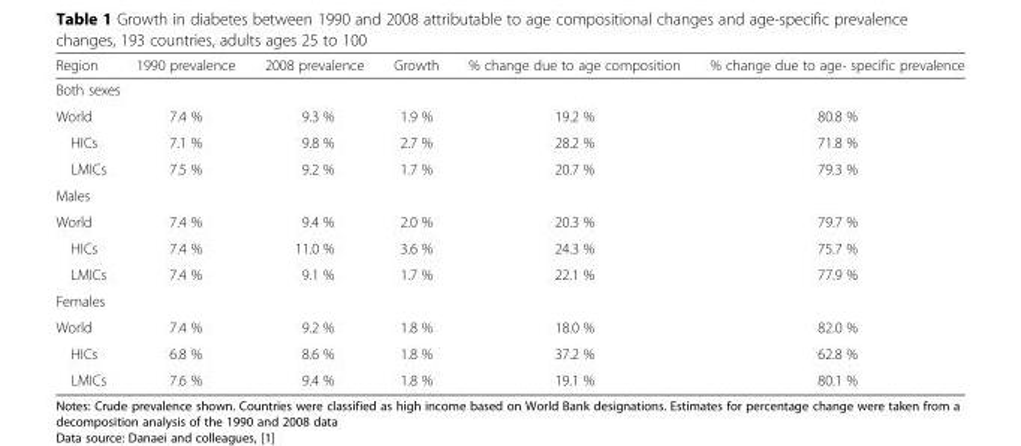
<table><thead><tr><td>Region</td><td>1990 prevalence</td><td>2008 prevalence</td><td>Growth</td><td>% change due to age composition</td><td>% change due to age- specific prevalence</td></tr></thead><tbody><tr><td colspan="6">Both sexes</td></tr><tr><td>World</td><td>7.4 %</td><td>9.3 %</td><td>1.9 %</td><td>19.2 %</td><td>80.8 %</td></tr><tr><td>HICs</td><td>7.1 %</td><td>9.8 %</td><td>2.7 %</td><td>28.2 %</td><td>71.8 %</td></tr><tr><td>LMICs</td><td>7.5 %</td><td>9.2 %</td><td>1.7 %</td><td>20.7 %</td><td>79.3 %</td></tr><tr><td colspan="6">Males</td></tr><tr><td>World</td><td>7.4 %</td><td>9.4 %</td><td>2.0 %</td><td>20.3 %</td><td>79.7 %</td></tr><tr><td>HICs</td><td>7.4 %</td><td>11.0 %</td><td>3.6 %</td><td>24.3 %</td><td>75.7 %</td></tr><tr><td>LMICs</td><td>7.4 %</td><td>9.1 %</td><td>1.7 %</td><td>22.1 %</td><td>77.9 %</td></tr><tr><td colspan="6">Females</td></tr><tr><td>World</td><td>7.4 %</td><td>9.2 %</td><td>1.8 %</td><td>18.0 %</td><td>82.0 %</td></tr><tr><td>HICs</td><td>6.8 %</td><td>8.6 %</td><td>1.8 %</td><td>37.2 %</td><td>62.8 %</td></tr><tr><td>LMICs</td><td>7.6 %</td><td>9.4 %</td><td>1.8 %</td><td>19.1 %</td><td>80.1 %</td></tr></tbody></table>